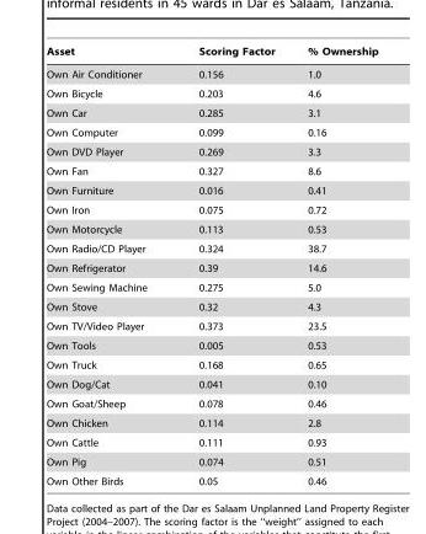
<table><thead><tr><td>Asset</td><td>Scoring Factor</td><td>% Ownership</td></tr></thead><tbody><tr><td>Own Air Conditioner</td><td>0.156</td><td>1.0</td></tr><tr><td>Own Bicycle</td><td>0.203</td><td>4.6</td></tr><tr><td>Own Car</td><td>0.285</td><td>3.1</td></tr><tr><td>Own Computer</td><td>0.099</td><td>0.16</td></tr><tr><td>Own DVD Player</td><td>0.269</td><td>3.3</td></tr><tr><td>Own Fan</td><td>0.327</td><td>8.6</td></tr><tr><td>Own Furniture</td><td>0.016</td><td>0.41</td></tr><tr><td>Own Iron</td><td>0.075</td><td>0.72</td></tr><tr><td>Own Motorcycle</td><td>0.113</td><td>0.53</td></tr><tr><td>Own Radio/CD Player</td><td>0.324</td><td>38.7</td></tr><tr><td>Own Refrigerator</td><td>0.39</td><td>14.6</td></tr><tr><td>Own Sewing Machine</td><td>0.275</td><td>5.0</td></tr><tr><td>Own Stove</td><td>0.32</td><td>4.3</td></tr><tr><td>Own TV/Video Player</td><td>0.373</td><td>23.5</td></tr><tr><td>Own Tools</td><td>0.005</td><td>0.53</td></tr><tr><td>Own Truck</td><td>0.168</td><td>0.65</td></tr><tr><td>Own Dog/Cat</td><td>0.041</td><td>0.10</td></tr><tr><td>Own Goat/Sheep</td><td>0.078</td><td>0.46</td></tr><tr><td>Own Chicken</td><td>0.114</td><td>2.8</td></tr><tr><td>Own Cattle</td><td>0.111</td><td>0.93</td></tr><tr><td>Own Pig</td><td>0.074</td><td>0.51</td></tr><tr><td>Own Other Birds</td><td>0.05</td><td>0.46</td></tr></tbody></table>